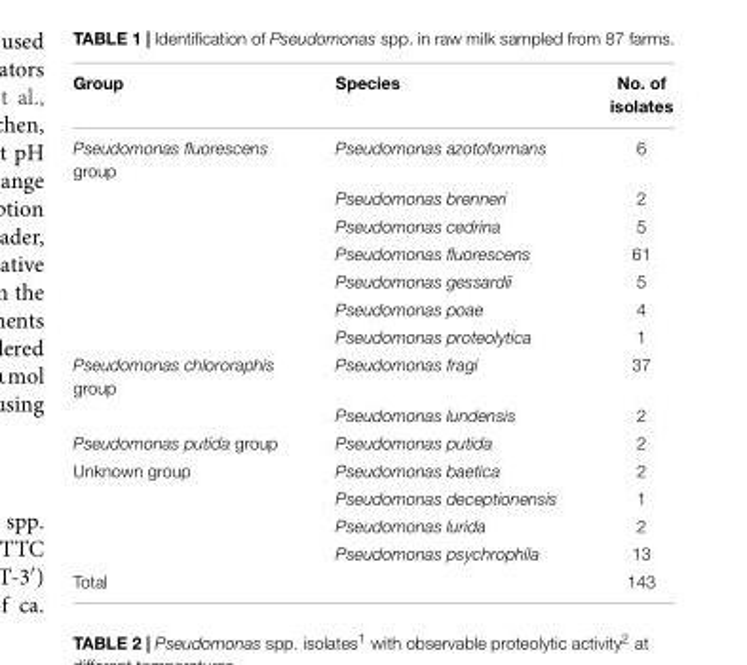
<table><thead><tr><td>Group</td><td>Species</td><td>No. of isolates</td></tr></thead><tbody><tr><td rowspan="7">Pseudomonas fluorescens group</td><td>Pseudomonas azotoformans</td><td>6</td></tr><tr><td>Pseudomonas brenneri</td><td>2</td></tr><tr><td>Pseudomonas cedrina</td><td>5</td></tr><tr><td>Pseudomonas fluorescens</td><td>61</td></tr><tr><td>Pseudomonas gessardii</td><td>5</td></tr><tr><td>Pseudomonas poae</td><td>4</td></tr><tr><td>Pseudomonas proteolytica</td><td>1</td></tr><tr><td rowspan="2">Pseudomonas chlororaphis group</td><td>Pseudomonas fragi</td><td>37</td></tr><tr><td>Pseudomonas lundensis</td><td>2</td></tr><tr><td>Pseudomonas putida group</td><td>Pseudomonas putida</td><td>2</td></tr><tr><td rowspan="4">Unknown group</td><td>Pseudomonas baetica</td><td>2</td></tr><tr><td>Pseudomonas deceptionensis</td><td>1</td></tr><tr><td>Pseudomonas lurida</td><td>2</td></tr><tr><td>Pseudomonas psychrophila</td><td>13</td></tr><tr><td>Total</td><td></td><td>143</td></tr></tbody></table>